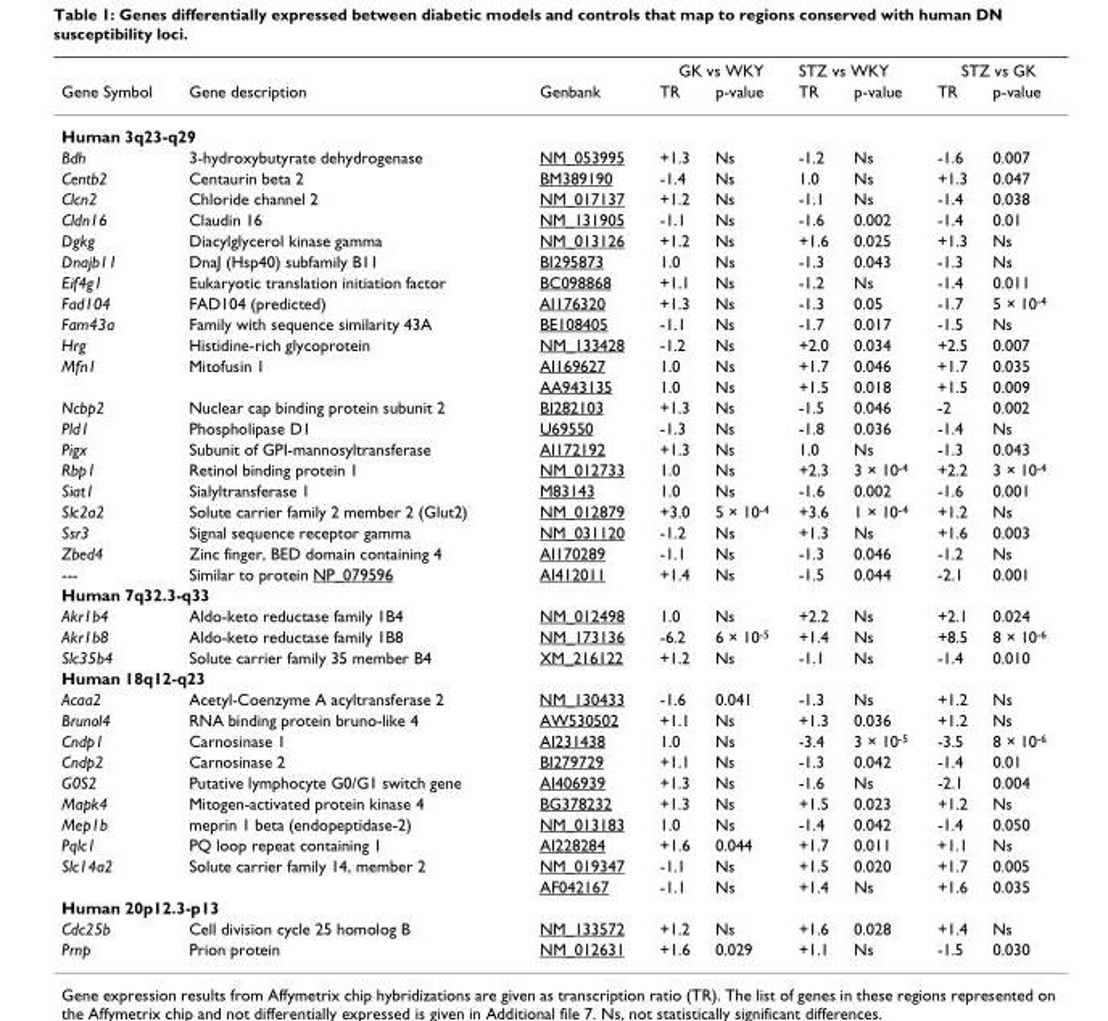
<table><thead><tr><td rowspan="2">Gene Symbol</td><td rowspan="2">Gene description</td><td rowspan="2">Genbank</td><td colspan="2">GK vs WKY</td><td colspan="2">STZ vs WKY</td><td colspan="2">STZ vs GK</td></tr><tr><td>TR</td><td>p-value</td><td>TR</td><td>p-value</td><td>TR</td><td>p-value</td></tr></thead><tbody><tr><td colspan="9">Human 3q23-q29</td></tr><tr><td>Bdh</td><td>3-hydroxybutyrate dehydrogenase</td><td>NM_053995</td><td>+1.3</td><td>Ns</td><td>-1.2</td><td>Ns</td><td>-1.6</td><td>0.007</td></tr><tr><td>Centb2</td><td>Centaurin beta 2</td><td>BM389190</td><td>-1.4</td><td>Ns</td><td>1.0</td><td>Ns</td><td>+1.3</td><td>0.047</td></tr><tr><td>Clcn2</td><td>Chloride channel 2</td><td>NM_017137</td><td>+1.2</td><td>Ns</td><td>-1.1</td><td>Ns</td><td>-1.4</td><td>0.038</td></tr><tr><td>Cldn16</td><td>Claudin 16</td><td>NM_131905</td><td>-1.1</td><td>Ns</td><td>-1.6</td><td>0.002</td><td>-1.4</td><td>0.01</td></tr><tr><td>Dgkg</td><td>Diacylglycerol kinase gamma</td><td>NM_013126</td><td>+1.2</td><td>Ns</td><td>+1.6</td><td>0.025</td><td>+1.3</td><td>Ns</td></tr><tr><td>Dnajb11</td><td>DnaJ (Hsp40) subfamily B11</td><td>BI295873</td><td>1.0</td><td>Ns</td><td>-1.3</td><td>0.043</td><td>-1.3</td><td>Ns</td></tr><tr><td>Eif4g1</td><td>Eukaryotic translation initiation factor</td><td>BC098868</td><td>+1.1</td><td>Ns</td><td>-1.2</td><td>Ns</td><td>-1.4</td><td>0.011</td></tr><tr><td>Fad104</td><td>FAD104 (predicted)</td><td>AI176320</td><td>+1.3</td><td>Ns</td><td>-1.3</td><td>0.05</td><td>-1.7</td><td>5 × 10<sup>-4</sup></td></tr><tr><td>Fam43a</td><td>Family with sequence similarity 43A</td><td>BE108405</td><td>-1.1</td><td>Ns</td><td>-1.7</td><td>0.017</td><td>-1.5</td><td>Ns</td></tr><tr><td>Hrg</td><td>Histidine-rich glycoprotein</td><td>NM_133428</td><td>-1.2</td><td>Ns</td><td>+2.0</td><td>0.034</td><td>+2.5</td><td>0.007</td></tr><tr><td rowspan="2">Mfn1</td><td>Mitofusin 1</td><td>AI169627</td><td>1.0</td><td>Ns</td><td>+1.7</td><td>0.046</td><td>+1.7</td><td>0.035</td></tr><tr><td></td><td>AA943135</td><td>1.0</td><td>Ns</td><td>+1.5</td><td>0.018</td><td>+1.5</td><td>0.009</td></tr><tr><td>Ncbp2</td><td>Nuclear cap binding protein subunit 2</td><td>BI282103</td><td>+1.3</td><td>Ns</td><td>-1.5</td><td>0.046</td><td>-2</td><td>0.002</td></tr><tr><td>Pld1</td><td>Phospholipase D1</td><td>U69550</td><td>-1.3</td><td>Ns</td><td>-1.8</td><td>0.036</td><td>-1.4</td><td>Ns</td></tr><tr><td>Pigx</td><td>Subunit of GPI-mannosyltransferase</td><td>AI172192</td><td>+1.3</td><td>Ns</td><td>1.0</td><td>Ns</td><td>-1.3</td><td>0.043</td></tr><tr><td>Rbp1</td><td>Retinol binding protein 1</td><td>NM_012733</td><td>1.0</td><td>Ns</td><td>+2.3</td><td>3 × 10<sup>-4</sup></td><td>+2.2</td><td>3 × 10<sup>-4</sup></td></tr><tr><td>Siat1</td><td>Sialyltransferase 1</td><td>M83143</td><td>1.0</td><td>Ns</td><td>-1.6</td><td>0.002</td><td>-1.6</td><td>0.001</td></tr><tr><td>Slc2a2</td><td>Solute carrier family 2 member 2 (Glut2)</td><td>NM_012879</td><td>+3.0</td><td>5 × 10<sup>-4</sup></td><td>+3.6</td><td>1 × 10<sup>-4</sup></td><td>+1.2</td><td>Ns</td></tr><tr><td>Ssr3</td><td>Signal sequence receptor gamma</td><td>NM_031120</td><td>-1.2</td><td>Ns</td><td>+1.3</td><td>Ns</td><td>+1.6</td><td>0.003</td></tr><tr><td>Zbed4</td><td>Zinc finger, BED domain containing 4</td><td>AI170289</td><td>-1.1</td><td>Ns</td><td>-1.3</td><td>0.046</td><td>-1.2</td><td>Ns</td></tr><tr><td>---</td><td>Similar to protein NP_079596</td><td>AI412011</td><td>+1.4</td><td>Ns</td><td>-1.5</td><td>0.044</td><td>-2.1</td><td>0.001</td></tr><tr><td colspan="9">Human 7q32.3-q33</td></tr><tr><td>Akr1b4</td><td>Aldo-keto reductase family 1B4</td><td>NM_012498</td><td>1.0</td><td>Ns</td><td>+2.2</td><td>Ns</td><td>+2.1</td><td>0.024</td></tr><tr><td>Akr1b8</td><td>Aldo-keto reductase family 1B8</td><td>NM_173136</td><td>-6.2</td><td>6 × 10<sup>-5</sup></td><td>+1.4</td><td>Ns</td><td>+8.5</td><td>8 × 10<sup>-6</sup></td></tr><tr><td>Slc35b4</td><td>Solute carrier family 35 member B4</td><td>XM_216122</td><td>+1.2</td><td>Ns</td><td>-1.1</td><td>Ns</td><td>-1.4</td><td>0.010</td></tr><tr><td colspan="9">Human 18q12-q23</td></tr><tr><td>Acaa2</td><td>Acetyl-Coenzyme A acyltransferase 2</td><td>NM_130433</td><td>-1.6</td><td>0.041</td><td>-1.3</td><td>Ns</td><td>+1.2</td><td>Ns</td></tr><tr><td>Brunol4</td><td>RNA binding protein bruno-like 4</td><td>AW530502</td><td>+1.1</td><td>Ns</td><td>+1.3</td><td>0.036</td><td>+1.2</td><td>Ns</td></tr><tr><td>Cndp1</td><td>Carnosinase 1</td><td>AI231438</td><td>1.0</td><td>Ns</td><td>-3.4</td><td>3 × 10<sup>-5</sup></td><td>-3.5</td><td>8 × 10<sup>-6</sup></td></tr><tr><td>Cndp2</td><td>Carnosinase 2</td><td>BI279729</td><td>+1.1</td><td>Ns</td><td>-1.3</td><td>0.042</td><td>-1.4</td><td>0.01</td></tr><tr><td>G0S2</td><td>Putative lymphocyte G0/G1 switch gene</td><td>AI406939</td><td>+1.3</td><td>Ns</td><td>-1.6</td><td>Ns</td><td>-2.1</td><td>0.004</td></tr><tr><td>Mapk4</td><td>Mitogen-activated protein kinase 4</td><td>BG378232</td><td>+1.3</td><td>Ns</td><td>+1.5</td><td>0.023</td><td>+1.2</td><td>Ns</td></tr><tr><td>Mep1b</td><td>meprin 1 beta (endopeptidase-2)</td><td>NM_013183</td><td>1.0</td><td>Ns</td><td>-1.4</td><td>0.042</td><td>-1.4</td><td>0.050</td></tr><tr><td>Pqlc1</td><td>PQ loop repeat containing 1</td><td>AI228284</td><td>+1.6</td><td>0.044</td><td>+1.7</td><td>0.011</td><td>+1.1</td><td>Ns</td></tr><tr><td rowspan="2">Slc14a2</td><td>Solute carrier family 14, member 2</td><td>NM_019347</td><td>-1.1</td><td>Ns</td><td>+1.5</td><td>0.020</td><td>+1.7</td><td>0.005</td></tr><tr><td></td><td>AF042167</td><td>-1.1</td><td>Ns</td><td>+1.4</td><td>Ns</td><td>+1.6</td><td>0.035</td></tr><tr><td colspan="9">Human 20p12.3-p13</td></tr><tr><td>Cdc25b</td><td>Cell division cycle 25 homolog B</td><td>NM_133572</td><td>+1.2</td><td>Ns</td><td>+1.6</td><td>0.028</td><td>+1.4</td><td>Ns</td></tr><tr><td>Prnp</td><td>Prion protein</td><td>NM_012631</td><td>+1.6</td><td>0.029</td><td>+1.1</td><td>Ns</td><td>-1.5</td><td>0.030</td></tr></tbody></table>